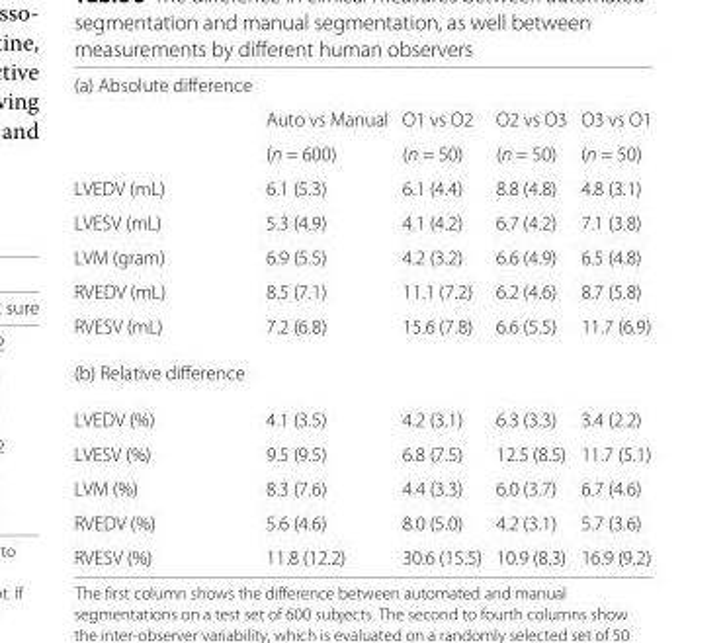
<table><tbody><tr><td colspan="5">(a) Absolute difference</td></tr><tr><td></td><td>Auto vs Manual</td><td>O1 vs O2</td><td>O2 vs O3</td><td>O3 vs O1</td></tr><tr><td></td><td>(n = 600)</td><td>(n = 50)</td><td>(n = 50)</td><td>(n = 50)</td></tr><tr><td>LVEDV (mL)</td><td>6.1 (5.3)</td><td>6.1 (4.4)</td><td>8.8 (4.8)</td><td>4.8 (3.1)</td></tr><tr><td>LVESV (mL)</td><td>5.3 (4.9)</td><td>4.1 (4.2)</td><td>6.7 (4.2)</td><td>7.1 (3.8)</td></tr><tr><td>LVM (gram)</td><td>6.9 (5.5)</td><td>4.2 (3.2)</td><td>6.6 (4.9)</td><td>6.5 (4.8)</td></tr><tr><td>RVEDV (mL)</td><td>8.5 (7.1)</td><td>11.1 (7.2)</td><td>6.2 (4.6)</td><td>8.7 (5.8)</td></tr><tr><td>RVESV (mL)</td><td>7.2 (6.8)</td><td>15.6 (7.8)</td><td>6.6 (5.5)</td><td>11.7 (6.9)</td></tr><tr><td colspan="5">(b) Relative difference</td></tr><tr><td>LVEDV (%)</td><td>4.1 (3.5)</td><td>4.2 (3.1)</td><td>6.3 (3.3)</td><td>3.4 (2.2)</td></tr><tr><td>LVESV (%)</td><td>9.5 (9.5)</td><td>6.8 (7.5)</td><td>12.5 (8.5)</td><td>11.7 (5.1)</td></tr><tr><td>LVM (%)</td><td>8.3 (7.6)</td><td>4.4 (3.3)</td><td>6.0 (3.7)</td><td>6.7 (4.6)</td></tr><tr><td>RVEDV (%)</td><td>5.6 (4.6)</td><td>8.0 (5.0)</td><td>4.2 (3.1)</td><td>5.7 (3.6)</td></tr><tr><td>RVESV (%)</td><td>11.8 (12.2)</td><td>30.6 (15.5)</td><td>10.9 (8.3)</td><td>16.9 (9.2)</td></tr></tbody></table>